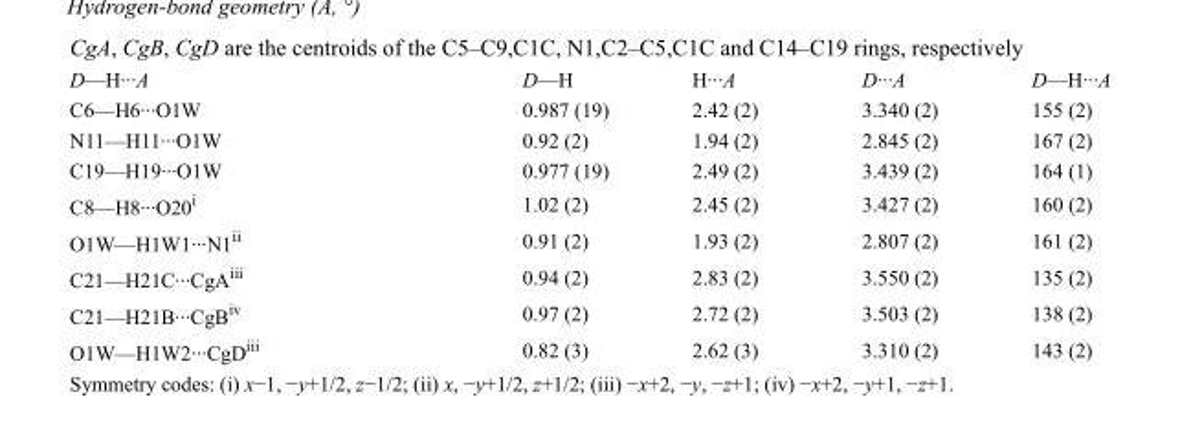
<table><tbody><tr><td>D—H···A</td><td>D—H</td><td>H···A</td><td>D···A</td><td>D—H···A</td></tr><tr><td>C6—H6···O1W</td><td>0.987 (19)</td><td>2.42 (2)</td><td>3.340 (2)</td><td>155 (2)</td></tr><tr><td>N11—H11···O1W</td><td>0.92 (2)</td><td>1.94 (2)</td><td>2.845 (2)</td><td>167 (2)</td></tr><tr><td>C19—H19···O1W</td><td>0.977 (19)</td><td>2.49 (2)</td><td>3.439 (2)</td><td>164 (1)</td></tr><tr><td>C8—H8···O20<sup>i</sup></td><td>1.02 (2)</td><td>2.45 (2)</td><td>3.427 (2)</td><td>160 (2)</td></tr><tr><td>O1W—H1W1···N1<sup>ii</sup></td><td>0.91 (2)</td><td>1.93 (2)</td><td>2.807 (2)</td><td>161 (2)</td></tr><tr><td>C21—H21C···CgA<sup>iii</sup></td><td>0.94 (2)</td><td>2.83 (2)</td><td>3.550 (2)</td><td>135 (2)</td></tr><tr><td>C21—H21B···CgB<sup>iv</sup></td><td>0.97 (2)</td><td>2.72 (2)</td><td>3.503 (2)</td><td>138 (2)</td></tr><tr><td>O1W—H1W2···CgD<sup>iii</sup></td><td>0.82 (3)</td><td>2.62 (3)</td><td>3.310 (2)</td><td>143 (2)</td></tr></tbody></table>